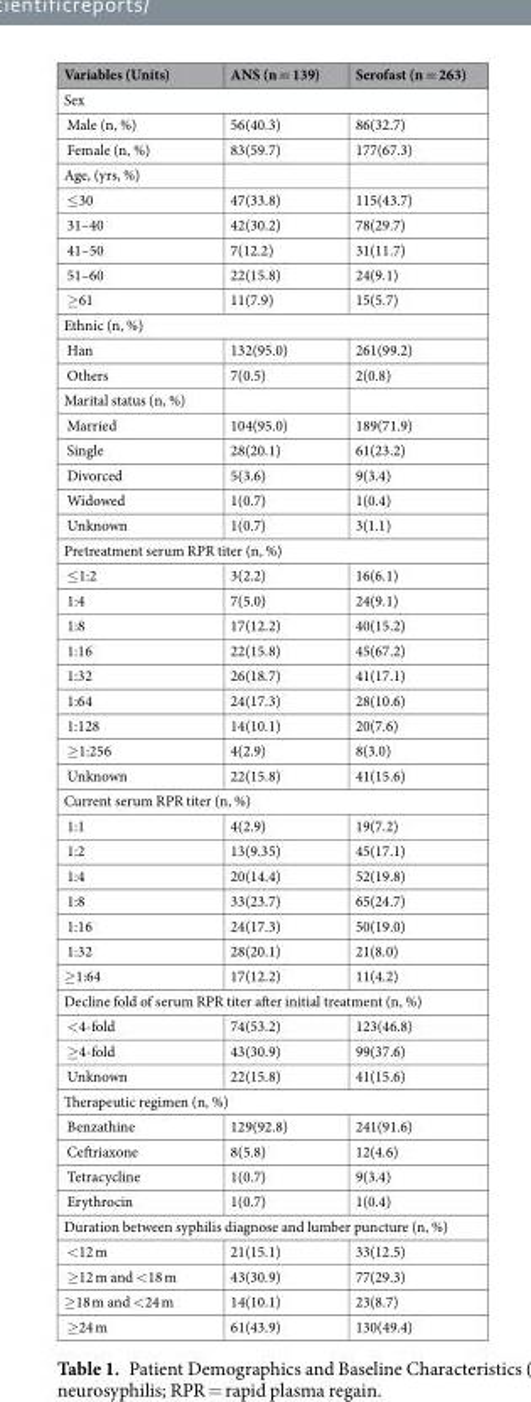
<table><thead><tr><td>Variables (Units)</td><td>ANS (n = 139)</td><td>Serofast (n = 263)</td></tr></thead><tbody><tr><td colspan="3">Sex</td></tr><tr><td>Male (n, %)</td><td>56(40.3)</td><td>86(32.7)</td></tr><tr><td>Female (n, %)</td><td>83(59.7)</td><td>177(67.3)</td></tr><tr><td colspan="3">Age, (yrs, %)</td></tr><tr><td>≤30</td><td>47(33.8)</td><td>115(43.7)</td></tr><tr><td>31–40</td><td>42(30.2)</td><td>78(29.7)</td></tr><tr><td>41–50</td><td>7(12.2)</td><td>31(11.7)</td></tr><tr><td>51–60</td><td>22(15.8)</td><td>24(9.1)</td></tr><tr><td>≥61</td><td>11(7.9)</td><td>15(5.7)</td></tr><tr><td colspan="3">Ethnic (n, %)</td></tr><tr><td>Han</td><td>132(95.0)</td><td>261(99.2)</td></tr><tr><td>Others</td><td>7(0.5)</td><td>2(0.8)</td></tr><tr><td colspan="3">Marital status (n, %)</td></tr><tr><td>Married</td><td>104(95.0)</td><td>189(71.9)</td></tr><tr><td>Single</td><td>28(20.1)</td><td>61(23.2)</td></tr><tr><td>Divorced</td><td>5(3.6)</td><td>9(3.4)</td></tr><tr><td>Widowed</td><td>1(0.7)</td><td>1(0.4)</td></tr><tr><td>Unknown</td><td>1(0.7)</td><td>3(1.1)</td></tr><tr><td colspan="3">Pretreatment serum RPR titer (n, %)</td></tr><tr><td>≤1:2</td><td>3(2.2)</td><td>16(6.1)</td></tr><tr><td>1:4</td><td>7(5.0)</td><td>24(9.1)</td></tr><tr><td>1:8</td><td>17(12.2)</td><td>40(15.2)</td></tr><tr><td>1:16</td><td>22(15.8)</td><td>45(67.2)</td></tr><tr><td>1:32</td><td>26(18.7)</td><td>41(17.1)</td></tr><tr><td>1:64</td><td>24(17.3)</td><td>28(10.6)</td></tr><tr><td>1:128</td><td>14(10.1)</td><td>20(7.6)</td></tr><tr><td>≥1:256</td><td>4(2.9)</td><td>8(3.0)</td></tr><tr><td>Unknown</td><td>22(15.8)</td><td>41(15.6)</td></tr><tr><td colspan="3">Current serum RPR titer (n, %)</td></tr><tr><td>1:1</td><td>4(2.9)</td><td>19(7.2)</td></tr><tr><td>1:2</td><td>13(9.35)</td><td>45(17.1)</td></tr><tr><td>1:4</td><td>20(14.4)</td><td>52(19.8)</td></tr><tr><td>1:8</td><td>33(23.7)</td><td>65(24.7)</td></tr><tr><td>1:16</td><td>24(17.3)</td><td>50(19.0)</td></tr><tr><td>1:32</td><td>28(20.1)</td><td>21(8.0)</td></tr><tr><td>≥1:64</td><td>17(12.2)</td><td>11(4.2)</td></tr><tr><td colspan="3">Decline fold of serum RPR titer after initial treatment (n, %)</td></tr><tr><td>&lt;4-fold</td><td>74(53.2)</td><td>123(46.8)</td></tr><tr><td>≥4-fold</td><td>43(30.9)</td><td>99(37.6)</td></tr><tr><td>Unknown</td><td>22(15.8)</td><td>41(15.6)</td></tr><tr><td colspan="3">Therapeutic regimen (n, %)</td></tr><tr><td>Benzathine</td><td>129(92.8)</td><td>241(91.6)</td></tr><tr><td>Ceftriaxone</td><td>8(5.8)</td><td>12(4.6)</td></tr><tr><td>Tetracycline</td><td>1(0.7)</td><td>9(3.4)</td></tr><tr><td>Erythrocin</td><td>1(0.7)</td><td>1(0.4)</td></tr><tr><td colspan="3">Duration between syphilis diagnose and lumber puncture (n, %)</td></tr><tr><td>&lt;12 m</td><td>21(15.1)</td><td>33(12.5)</td></tr><tr><td>≥12 m and &lt;18 m</td><td>43(30.9)</td><td>77(29.3)</td></tr><tr><td>≥18 m and &lt;24 m</td><td>14(10.1)</td><td>23(8.7)</td></tr><tr><td>≥24 m</td><td>61(43.9)</td><td>130(49.4)</td></tr></tbody></table>